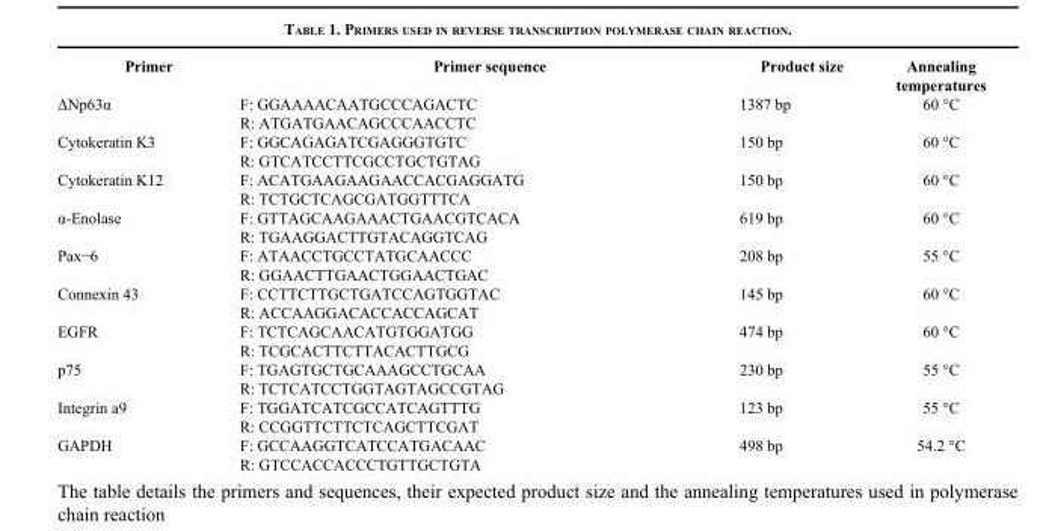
<table><thead><tr><td>Primer</td><td>Primer sequence</td><td>Product size</td><td>Annealing temperatures</td></tr></thead><tbody><tr><td rowspan="2">ΔNp63α</td><td>F: GGAAAACAATGCCCAGACTC</td><td rowspan="2">1387 bp</td><td rowspan="2">60 °C</td></tr><tr><td>R: ATGATGAACAGCCCAACCTC</td></tr><tr><td rowspan="2">Cytokeratin K3</td><td>F: GGCAGAGATCGAGGGTGTC</td><td rowspan="2">150 bp</td><td rowspan="2">60 °C</td></tr><tr><td>R: GTCATCCTTCGCCTGCTGTAG</td></tr><tr><td rowspan="2">Cytokeratin K12</td><td>F: ACATGAAGAAGAACCACGAGGATG</td><td rowspan="2">150 bp</td><td rowspan="2">60 °C</td></tr><tr><td>R: TCTGCTCAGCGATGGTTTCA</td></tr><tr><td rowspan="2">α-Enolase</td><td>F: GTTAGCAAGAAACTGAACGTCACA</td><td rowspan="2">619 bp</td><td rowspan="2">60 °C</td></tr><tr><td>R: TGAAGGACTTGTACAGGTCAG</td></tr><tr><td rowspan="2">Pax−6</td><td>F: ATAACCTGCCTATGCAACCC</td><td rowspan="2">208 bp</td><td rowspan="2">55 °C</td></tr><tr><td>R: GGAACTTGAACTGGAACTGAC</td></tr><tr><td rowspan="2">Connexin 43</td><td>F: CCTTCTTGCTGATCCAGTGGTAC</td><td rowspan="2">145 bp</td><td rowspan="2">60 °C</td></tr><tr><td>R: ACCAAGGACACCACCAGCAT</td></tr><tr><td rowspan="2">EGFR</td><td>F: TCTCAGCAACATGTGGATGG</td><td rowspan="2">474 bp</td><td rowspan="2">60 °C</td></tr><tr><td>R: TCGCACTTCTTACACTTGCG</td></tr><tr><td rowspan="2">p75</td><td>F: TGAGTGCTGCAAAGCCTGCAA</td><td rowspan="2">230 bp</td><td rowspan="2">55 °C</td></tr><tr><td>R: TCTCATCCTGGTAGTAGCCGTAG</td></tr><tr><td rowspan="2">Integrin a9</td><td>F: TGGATCATCGCCATCAGTTTG</td><td rowspan="2">123 bp</td><td rowspan="2">55 °C</td></tr><tr><td>R: CCGGTTCTTCTCAGCTTCGAT</td></tr><tr><td rowspan="2">GAPDH</td><td>F: GCCAAGGTCATCCATGACAAC</td><td rowspan="2">498 bp</td><td rowspan="2">54.2 °C</td></tr><tr><td>R: GTCCACCACCCTGTTGCTGTA</td></tr></tbody></table>